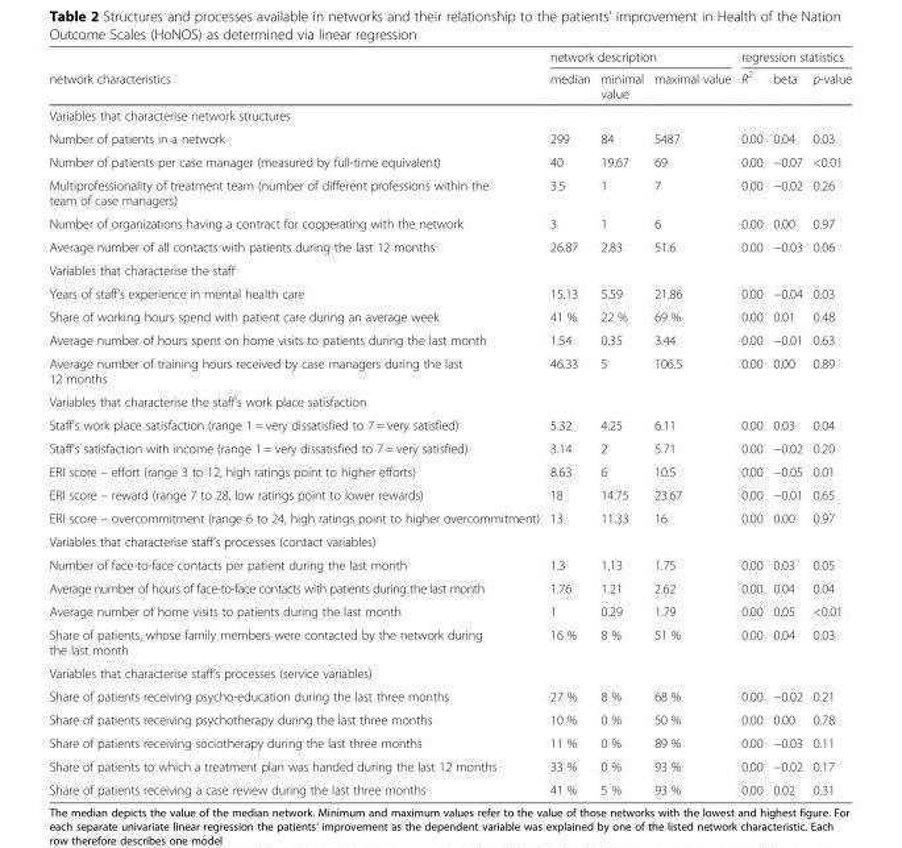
<table><thead><tr><td rowspan="2">network characteristics</td><td colspan="3">network description</td><td colspan="3">regression statistics</td></tr><tr><td>median</td><td>minimal value</td><td>maximal value</td><td>R<sup>2</sup></td><td>beta</td><td>p-value</td></tr></thead><tbody><tr><td colspan="7">Variables that characterise network structures</td></tr><tr><td>Number of patients in a network</td><td>299</td><td>84</td><td>5487</td><td>0.00</td><td>0.04</td><td>0.03</td></tr><tr><td>Number of patients per case manager (measured by full-time equivalent)</td><td>40</td><td>19.67</td><td>69</td><td>0.00</td><td>−0.07</td><td>&lt;0.01</td></tr><tr><td>Multiprofessionality of treatment team (number of different professions within the team of case managers)</td><td>3.5</td><td>1</td><td>7</td><td>0.00</td><td>−0.02</td><td>0.26</td></tr><tr><td>Number of organizations having a contract for cooperating with the network</td><td>3</td><td>1</td><td>6</td><td>0.00</td><td>0.00</td><td>0.97</td></tr><tr><td>Average number of all contacts with patients during the last 12 months</td><td>26.87</td><td>2.83</td><td>51.6</td><td>0.00</td><td>−0.03</td><td>0.06</td></tr><tr><td colspan="7">Variables that characterise the staff</td></tr><tr><td>Years of staff’s experience in mental health care</td><td>15.13</td><td>5.59</td><td>21.86</td><td>0.00</td><td>−0.04</td><td>0.03</td></tr><tr><td>Share of working hours spend with patient care during an average week</td><td>41 %</td><td>22 %</td><td>69 %</td><td>0.00</td><td>0.01</td><td>0.48</td></tr><tr><td>Average number of hours spent on home visits to patients during the last month</td><td>1.54</td><td>0.35</td><td>3.44</td><td>0.00</td><td>−0.01</td><td>0.63</td></tr><tr><td>Average number of training hours received by case managers during the last 12 months</td><td>46.33</td><td>5</td><td>106.5</td><td>0.00</td><td>0.00</td><td>0.89</td></tr><tr><td colspan="7">Variables that characterise the staff’s work place satisfaction</td></tr><tr><td>Staff’s work place satisfaction (range 1 = very dissatisfied to 7 = very satisfied)</td><td>5.32</td><td>4.25</td><td>6.11</td><td>0.00</td><td>0.03</td><td>0.04</td></tr><tr><td>Staff’s satisfaction with income (range 1 = very dissatisfied to 7 = very satisfied)</td><td>3.14</td><td>2</td><td>5.71</td><td>0.00</td><td>−0.02</td><td>0.20</td></tr><tr><td>ERI score – effort (range 3 to 12, high ratings point to higher efforts)</td><td>8.63</td><td>6</td><td>10.5</td><td>0.00</td><td>−0.05</td><td>0.01</td></tr><tr><td>ERI score – reward (range 7 to 28, low ratings point to lower rewards)</td><td>18</td><td>14.75</td><td>23.67</td><td>0.00</td><td>−0.01</td><td>0.65</td></tr><tr><td>ERI score – overcommitment (range 6 to 24, high ratings point to higher overcommitment)</td><td>13</td><td>11.33</td><td>16</td><td>0.00</td><td>0.00</td><td>0.97</td></tr><tr><td colspan="7">Variables that characterise staff’s processes (contact variables)</td></tr><tr><td>Number of face-to-face contacts per patient during the last month</td><td>1.3</td><td>1.13</td><td>1.75</td><td>0.00</td><td>0.03</td><td>0.05</td></tr><tr><td>Average number of hours of face-to-face contacts with patients during the last month</td><td>1.76</td><td>1.21</td><td>2.62</td><td>0.00</td><td>0.04</td><td>0.04</td></tr><tr><td>Average number of home visits to patients during the last month</td><td>1</td><td>0.29</td><td>1.79</td><td>0.00</td><td>0.05</td><td>&lt;0.01</td></tr><tr><td>Share of patients, whose family members were contacted by the network during the last month</td><td>16 %</td><td>8 %</td><td>51 %</td><td>0.00</td><td>0.04</td><td>0.03</td></tr><tr><td colspan="7">Variables that characterise staff’s processes (service variables)</td></tr><tr><td>Share of patients receiving psycho-education during the last three months</td><td>27 %</td><td>8 %</td><td>68 %</td><td>0.00</td><td>−0.02</td><td>0.21</td></tr><tr><td>Share of patients receiving psychotherapy during the last three months</td><td>10 %</td><td>0 %</td><td>50 %</td><td>0.00</td><td>0.00</td><td>0.78</td></tr><tr><td>Share of patients receiving sociotherapy during the last three months</td><td>11 %</td><td>0 %</td><td>89 %</td><td>0.00</td><td>−0.03</td><td>0.11</td></tr><tr><td>Share of patients to which a treatment plan was handed during the last 12 months</td><td>33 %</td><td>0 %</td><td>93 %</td><td>0.00</td><td>−0.02</td><td>0.17</td></tr><tr><td>Share of patients receiving a case review during the last three months</td><td>41 %</td><td>5 %</td><td>93 %</td><td>0.00</td><td>0.02</td><td>0.31</td></tr></tbody></table>